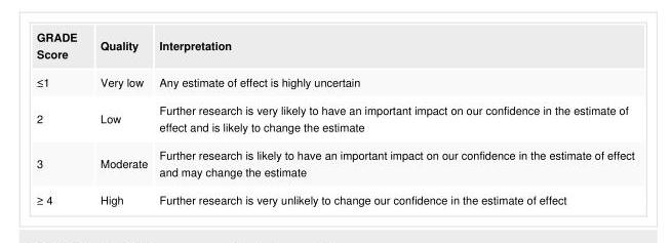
<table><tbody><tr><td>GRADE Score</td><td>Quality</td><td>Interpretation</td></tr><tr><td>≤1</td><td>Very low</td><td>Any estimate of effect is highly uncertain</td></tr><tr><td>2</td><td>Low</td><td>Further research is very likely to have an important impact on our confidence in the estimate of effect and is likely to change the estimate</td></tr><tr><td>3</td><td>Moderate</td><td>Further research is likely to have an important impact on our confidence in the estimate of effect and may change the estimate</td></tr><tr><td>≥ 4</td><td>High</td><td>Further research is very unlikely to change our confidence in the estimate of effect</td></tr></tbody></table>